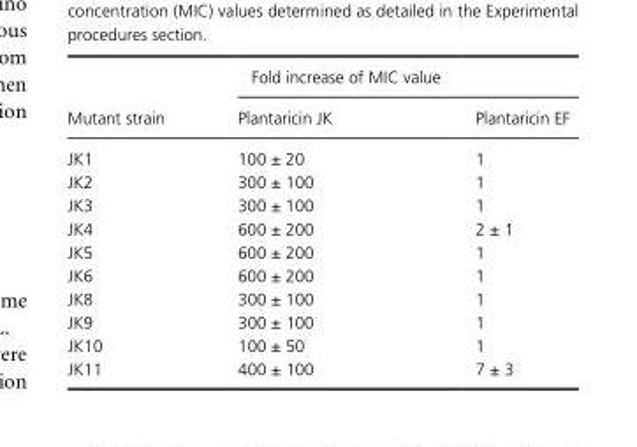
<table><thead><tr><td rowspan="2">Mutant strain</td><td colspan="2">Fold increase of MIC value</td></tr><tr><td>Plantaricin JK</td><td>Plantaricin EF</td></tr></thead><tbody><tr><td>JK1</td><td>100 ± 20</td><td>1</td></tr><tr><td>JK2</td><td>300 ± 100</td><td>1</td></tr><tr><td>JK3</td><td>300 ± 100</td><td>1</td></tr><tr><td>JK4</td><td>600 ± 200</td><td>2 ± 1</td></tr><tr><td>JK5</td><td>600 ± 200</td><td>1</td></tr><tr><td>JK6</td><td>600 ± 200</td><td>1</td></tr><tr><td>JK8</td><td>300 ± 100</td><td>1</td></tr><tr><td>JK9</td><td>300 ± 100</td><td>1</td></tr><tr><td>JK10</td><td>100 ± 50</td><td>1</td></tr><tr><td>JK11</td><td>400 ± 100</td><td>7 ± 3</td></tr></tbody></table>